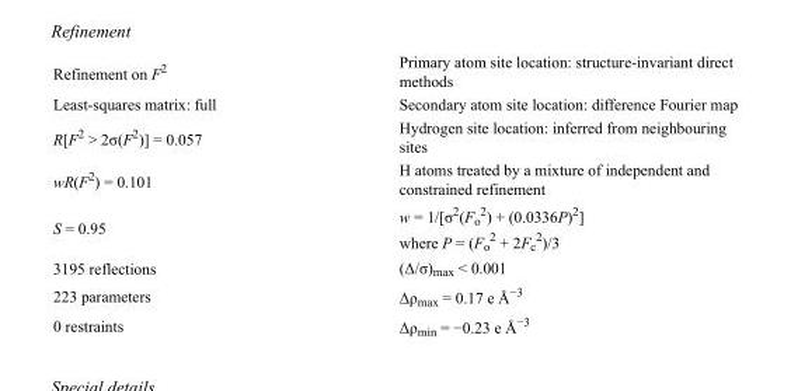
<table><tbody><tr><td>Refinement on F<sup>2</sup></td><td>Primary atom site location: structure-invariant direct methods</td></tr><tr><td>Least-squares matrix: full</td><td>Secondary atom site location: difference Fourier map</td></tr><tr><td>R[F<sup>2</sup> &gt; 2σ(F<sup>2</sup>)] = 0.057</td><td>Hydrogen site location: inferred from neighbouring sites</td></tr><tr><td>wR(F<sup>2</sup>) = 0.101</td><td>H atoms treated by a mixture of independent and constrained refinement</td></tr><tr><td>S = 0.95</td><td>w = 1/[σ<sup>2</sup>(F<sub>o</sub> <sup>2</sup>) + (0.0336P)<sup>2</sup>] where P = (F<sub>o</sub> <sup>2</sup> + 2F<sub>c</sub> <sup>2</sup>)/3</td></tr><tr><td>3195 reflections</td><td>(Δ/σ)<sub>max</sub> &lt; 0.001</td></tr><tr><td>223 parameters</td><td>Δρ<sub>max</sub> = 0.17 e Å<sup>−3</sup></td></tr><tr><td>0 restraints</td><td>Δρ<sub>min</sub> = −0.23 e Å<sup>−3</sup></td></tr></tbody></table>